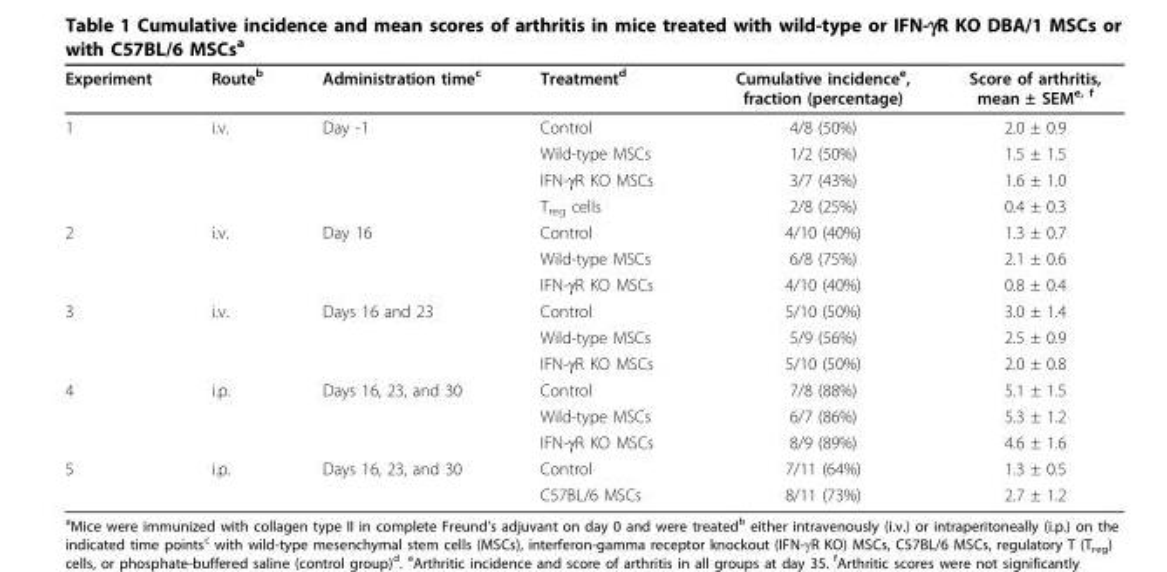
<table><thead><tr><td>Experiment</td><td>Route<sup>b</sup></td><td>Administration time<sup>c</sup></td><td>Treatment<sup>d</sup></td><td>Cumulative incidence<sup>e</sup>, fraction (percentage)</td><td>Score of arthritis, mean ± SEM<sup>e, f</sup></td></tr></thead><tbody><tr><td rowspan="4">1</td><td>i.v.</td><td>Day -1</td><td>Control</td><td>4/8 (50%)</td><td>2.0 ± 0.9</td></tr><tr><td></td><td></td><td>Wild-type MSCs</td><td>1/2 (50%)</td><td>1.5 ± 1.5</td></tr><tr><td></td><td></td><td>IFN-γR KO MSCs</td><td>3/7 (43%)</td><td>1.6 ± 1.0</td></tr><tr><td></td><td></td><td>T<sub>reg</sub> cells</td><td>2/8 (25%)</td><td>0.4 ± 0.3</td></tr><tr><td rowspan="3">2</td><td>i.v.</td><td>Day 16</td><td>Control</td><td>4/10 (40%)</td><td>1.3 ± 0.7</td></tr><tr><td></td><td></td><td>Wild-type MSCs</td><td>6/8 (75%)</td><td>2.1 ± 0.6</td></tr><tr><td></td><td></td><td>IFN-γR KO MSCs</td><td>4/10 (40%)</td><td>0.8 ± 0.4</td></tr><tr><td rowspan="3">3</td><td>i.v.</td><td>Days 16 and 23</td><td>Control</td><td>5/10 (50%)</td><td>3.0 ± 1.4</td></tr><tr><td></td><td></td><td>Wild-type MSCs</td><td>5/9 (56%)</td><td>2.5 ± 0.9</td></tr><tr><td></td><td></td><td>IFN-γR KO MSCs</td><td>5/10 (50%)</td><td>2.0 ± 0.8</td></tr><tr><td rowspan="3">4</td><td>i.p.</td><td>Days 16, 23, and 30</td><td>Control</td><td>7/8 (88%)</td><td>5.1 ± 1.5</td></tr><tr><td></td><td></td><td>Wild-type MSCs</td><td>6/7 (86%)</td><td>5.3 ± 1.2</td></tr><tr><td></td><td></td><td>IFN-γR KO MSCs</td><td>8/9 (89%)</td><td>4.6 ± 1.6</td></tr><tr><td rowspan="2">5</td><td>i.p.</td><td>Days 16, 23, and 30</td><td>Control</td><td>7/11 (64%)</td><td>1.3 ± 0.5</td></tr><tr><td></td><td></td><td>C57BL/6 MSCs</td><td>8/11 (73%)</td><td>2.7 ± 1.2</td></tr></tbody></table>